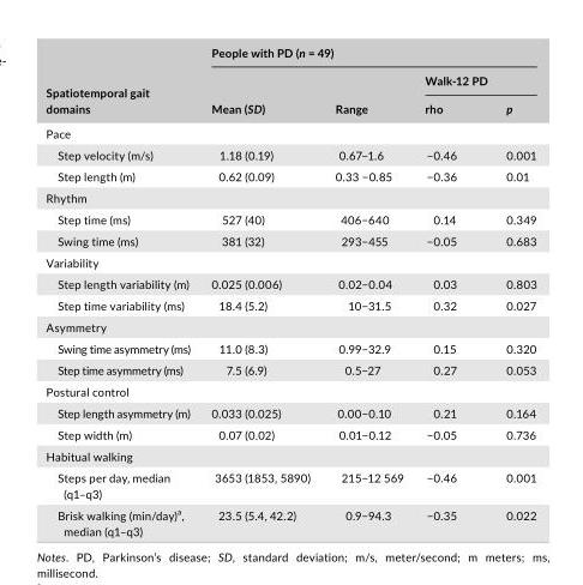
<table><thead><tr><td rowspan="3">Spatiotemporal gait domains</td><td colspan="4">People with PD (n = 49)</td></tr><tr><td rowspan="2">Mean (SD)</td><td rowspan="2">Range</td><td colspan="2">Walk- 12 PD</td></tr><tr><td>rho</td><td>p</td></tr></thead><tbody><tr><td colspan="5">Pace</td></tr><tr><td>Step velocity (m/s)</td><td>1.18 (0.19)</td><td>0.67−1.6</td><td>−0.46</td><td>0.001</td></tr><tr><td>Step length (m)</td><td>0.62 (0.09)</td><td>0.33 −0.85</td><td>−0.36</td><td>0.01</td></tr><tr><td colspan="5">Rhythm</td></tr><tr><td>Step time (ms)</td><td>527 (40)</td><td>406−640</td><td>0.14</td><td>0.349</td></tr><tr><td>Swing time (ms)</td><td>381 (32)</td><td>293−455</td><td>−0.05</td><td>0.683</td></tr><tr><td colspan="5">Variability</td></tr><tr><td>Step length variability (m)</td><td>0.025 (0.006)</td><td>0.02−0.04</td><td>0.03</td><td>0.803</td></tr><tr><td>Step time variability (ms)</td><td>18.4 (5.2)</td><td>10−31.5</td><td>0.32</td><td>0.027</td></tr><tr><td colspan="5">Asymmetry</td></tr><tr><td>Swing time asymmetry (ms)</td><td>11.0 (8.3)</td><td>0.99−32.9</td><td>0.15</td><td>0.320</td></tr><tr><td>Step time asymmetry (ms)</td><td>7.5 (6.9)</td><td>0.5−27</td><td>0.27</td><td>0.053</td></tr><tr><td colspan="5">Postural control</td></tr><tr><td>Step length asymmetry (m)</td><td>0.033 (0.025)</td><td>0.00−0.10</td><td>0.21</td><td>0.164</td></tr><tr><td>Step width (m)</td><td>0.07 (0.02)</td><td>0.01−0.12</td><td>−0.05</td><td>0.736</td></tr><tr><td colspan="5">Habitual walking</td></tr><tr><td>Steps per day, median (q1–q3)</td><td>3653 (1853, 5890)</td><td>215−12 569</td><td>−0.46</td><td>0.001</td></tr><tr><td>Brisk walking (min/day)<sup>a</sup>, median (q1–q3)</td><td>23.5 (5.4, 42.2)</td><td>0.9−94.3</td><td>−0.35</td><td>0.022</td></tr></tbody></table>